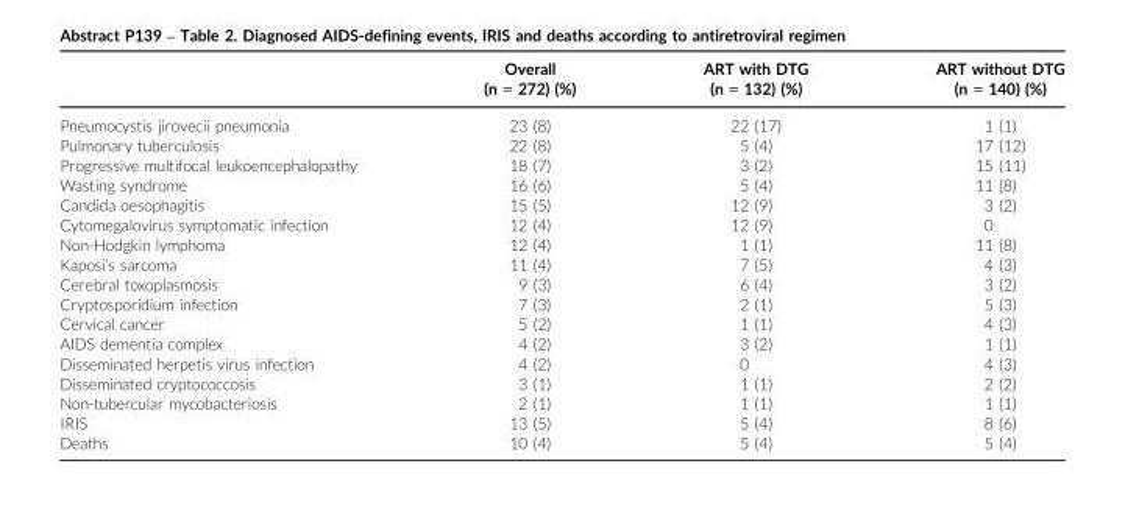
<table><thead><tr><td></td><td>Overall (n = 272) (%)</td><td>ART with DTG (n = 132) (%)</td><td>ART without DTG (n = 140) (%)</td></tr></thead><tbody><tr><td>Pneumocystis jirovecii pneumonia</td><td>23 (8)</td><td>22 (17)</td><td>1 (1)</td></tr><tr><td>Pulmonary tuberculosis</td><td>22 (8)</td><td>5 (4)</td><td>17 (12)</td></tr><tr><td>Progressive multifocal leukoencephalopathy</td><td>18 (7)</td><td>3 (2)</td><td>15 (11)</td></tr><tr><td>Wasting syndrome</td><td>16 (6)</td><td>5 (4)</td><td>11 (8)</td></tr><tr><td>Candida oesophagitis</td><td>15 (5)</td><td>12 (9)</td><td>3 (2)</td></tr><tr><td>Cytomegalovirus symptomatic infection</td><td>12 (4)</td><td>12 (9)</td><td>0</td></tr><tr><td>Non-Hodgkin lymphoma</td><td>12 (4)</td><td>1 (1)</td><td>11 (8)</td></tr><tr><td>Kaposi’s sarcoma</td><td>11 (4)</td><td>7 (5)</td><td>4 (3)</td></tr><tr><td>Cerebral toxoplasmosis</td><td>9 (3)</td><td>6 (4)</td><td>3 (2)</td></tr><tr><td>Cryptosporidium infection</td><td>7 (3)</td><td>2 (1)</td><td>5 (3)</td></tr><tr><td>Cervical cancer</td><td>5 (2)</td><td>1 (1)</td><td>4 (3)</td></tr><tr><td>AIDS dementia complex</td><td>4 (2)</td><td>3 (2)</td><td>1 (1)</td></tr><tr><td>Disseminated herpetis virus infection</td><td>4 (2)</td><td>0</td><td>4 (3)</td></tr><tr><td>Disseminated cryptococcosis</td><td>3 (1)</td><td>1 (1)</td><td>2 (2)</td></tr><tr><td>Non-tubercular mycobacteriosis</td><td>2 (1)</td><td>1 (1)</td><td>1 (1)</td></tr><tr><td>IRIS</td><td>13 (5)</td><td>5 (4)</td><td>8 (6)</td></tr><tr><td>Deaths</td><td>10 (4)</td><td>5 (4)</td><td>5 (4)</td></tr></tbody></table>